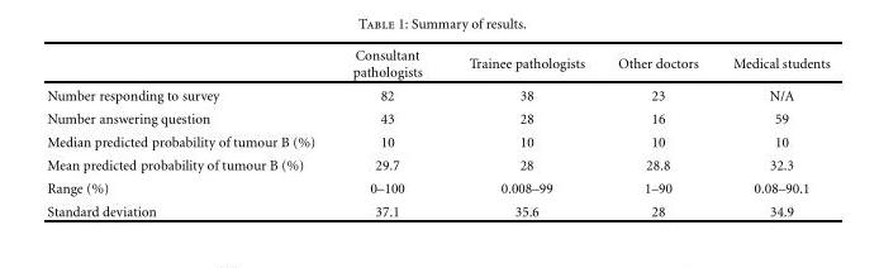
<table><thead><tr><td></td><td>Consultant pathologists</td><td>Trainee pathologists</td><td>Other doctors</td><td>Medical students</td></tr></thead><tbody><tr><td>Number responding to survey</td><td>82</td><td>38</td><td>23</td><td>N/A</td></tr><tr><td>Number answering question</td><td>43</td><td>28</td><td>16</td><td>59</td></tr><tr><td>Median predicted probability of tumour B (%)</td><td>10</td><td>10</td><td>10</td><td>10</td></tr><tr><td>Mean predicted probability of tumour B (%)</td><td>29.7</td><td>28</td><td>28.8</td><td>32.3</td></tr><tr><td>Range (%)</td><td>0–100</td><td>0.008–99</td><td>1–90</td><td>0.08–90.1</td></tr><tr><td>Standard deviation</td><td>37.1</td><td>35.6</td><td>28</td><td>34.9</td></tr></tbody></table>